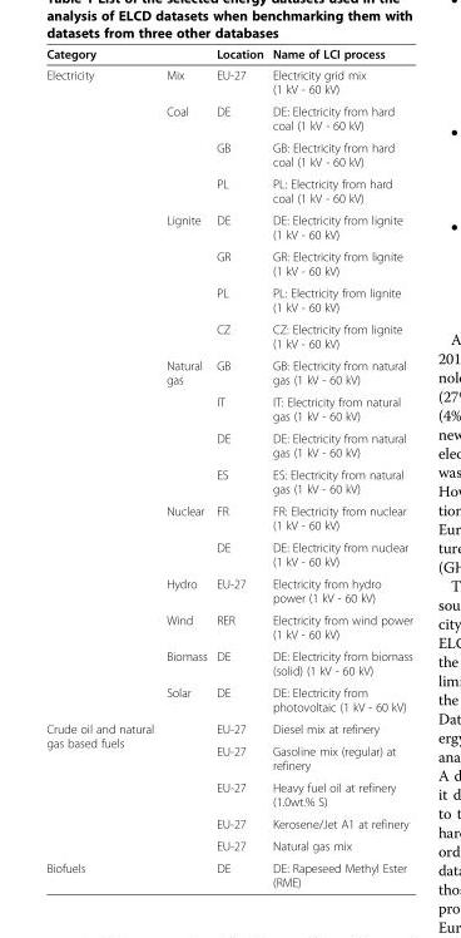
<table><thead><tr><td>Category</td><td></td><td>Location</td><td>Name of LCI process</td></tr></thead><tbody><tr><td rowspan="18">Electricity</td><td>Mix</td><td>EU-27</td><td>Electricity grid mix (1 kV - 60 kV)</td></tr><tr><td rowspan="3">Coal</td><td>DE</td><td>DE: Electricity from hard coal (1 kV - 60 kV)</td></tr><tr><td>GB</td><td>GB: Electricity from hard coal (1 kV - 60 kV)</td></tr><tr><td>PL</td><td>PL: Electricity from hard coal (1 kV - 60 kV)</td></tr><tr><td rowspan="4">Lignite</td><td>DE</td><td>DE: Electricity from lignite (1 kV - 60 kV)</td></tr><tr><td>GR</td><td>GR: Electricity from lignite (1 kV - 60 kV)</td></tr><tr><td>PL</td><td>PL: Electricity from lignite (1 kV - 60 kV)</td></tr><tr><td>CZ</td><td>CZ: Electricity from lignite (1 kV - 60 kV)</td></tr><tr><td rowspan="4">Natural gas</td><td>GB</td><td>GB: Electricity from natural gas (1 kV - 60 kV)</td></tr><tr><td>IT</td><td>IT: Electricity from natural gas (1 kV - 60 kV)</td></tr><tr><td>DE</td><td>DE: Electricity from natural gas (1 kV - 60 kV)</td></tr><tr><td>ES</td><td>ES: Electricity from natural gas (1 kV - 60 kV)</td></tr><tr><td rowspan="2">Nuclear</td><td>FR</td><td>FR: Electricity from nuclear (1 kV - 60 kV)</td></tr><tr><td>DE</td><td>DE: Electricity from nuclear (1 kV - 60 kV)</td></tr><tr><td>Hydro</td><td>EU-27</td><td>Electricity from hydro power (1 kV - 60 kV)</td></tr><tr><td>Wind</td><td>RER</td><td>Electricity from wind power (1 kV - 60 kV)</td></tr><tr><td>Biomass</td><td>DE</td><td>DE: Electricity from biomass (solid) (1 kV - 60 kV)</td></tr><tr><td>Solar</td><td>DE</td><td>DE: Electricity from photovoltaic (1 kV - 60 kV)</td></tr><tr><td rowspan="5">Crude oil and natural gas based fuels</td><td></td><td>EU-27</td><td>Diesel mix at refinery</td></tr><tr><td></td><td>EU-27</td><td>Gasoline mix (regular) at refinery</td></tr><tr><td></td><td>EU-27</td><td>Heavy fuel oil at refinery (1.0wt.% S)</td></tr><tr><td></td><td>EU-27</td><td>Kerosene/Jet A1 at refinery</td></tr><tr><td></td><td>EU-27</td><td>Natural gas mix</td></tr><tr><td>Biofuels</td><td></td><td>DE</td><td>DE: Rapeseed Methyl Ester (RME)</td></tr></tbody></table>